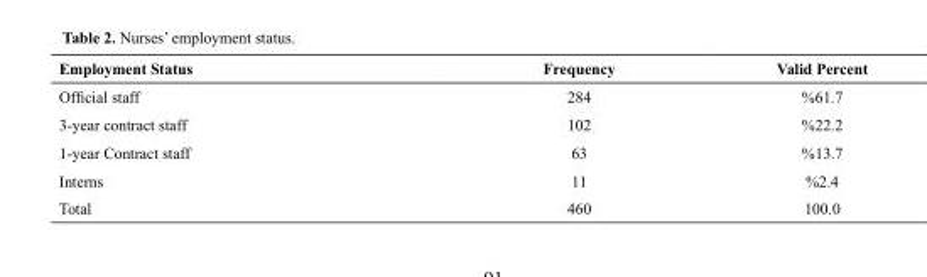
<table><thead><tr><td rowspan="5">Employment Status Official staff 3-year contract staff 1-year Contract staff Interns</td><td rowspan="5">Frequency 284 102 63 11</td><td rowspan="5">Valid Percent %61.7 %22.2 %13.7 %2.4</td></tr><tr></tr><tr></tr><tr></tr><tr></tr></thead><tbody><tr><td>Total</td><td>460</td><td>100.0</td></tr></tbody></table>